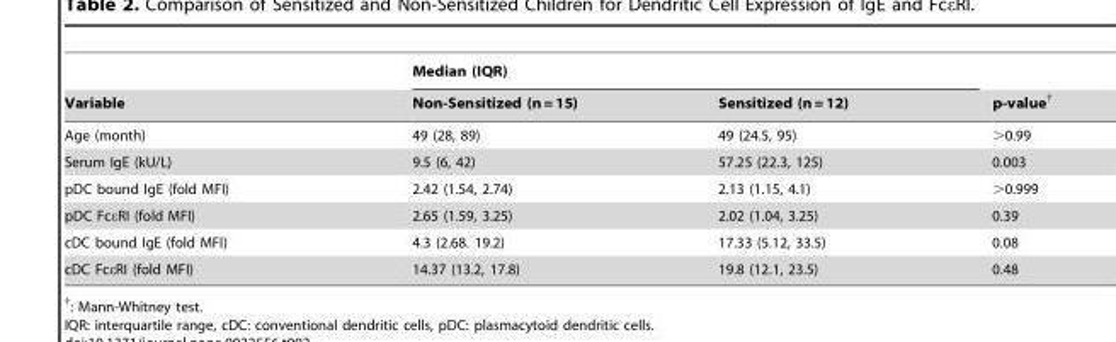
<table><thead><tr><td rowspan="2">Variable</td><td colspan="2">Median (IQR)</td><td rowspan="2">p-value†</td></tr><tr><td>Non-Sensitized (n = 15)</td><td>Sensitized (n = 12)</td></tr></thead><tbody><tr><td>Age (month)</td><td>49 (28, 89)</td><td>49 (24.5, 95)</td><td>&gt;0.99</td></tr><tr><td>Serum IgE (kU/L)</td><td>9.5 (6, 42)</td><td>57.25 (22.3, 125)</td><td>0.003</td></tr><tr><td>pDC bound IgE (fold MFI)</td><td>2.42 (1.54, 2.74)</td><td>2.13 (1.15, 4.1)</td><td>&gt;0.999</td></tr><tr><td>pDC FcεRI (fold MFI)</td><td>2.65 (1.59, 3.25)</td><td>2.02 (1.04, 3.25)</td><td>0.39</td></tr><tr><td>cDC bound IgE (fold MFI)</td><td>4.3 (2.68. 19.2)</td><td>17.33 (5.12, 33.5)</td><td>0.08</td></tr><tr><td>cDC FcεRI (fold MFI)</td><td>14.37 (13.2, 17.8)</td><td>19.8 (12.1, 23.5)</td><td>0.48</td></tr></tbody></table>